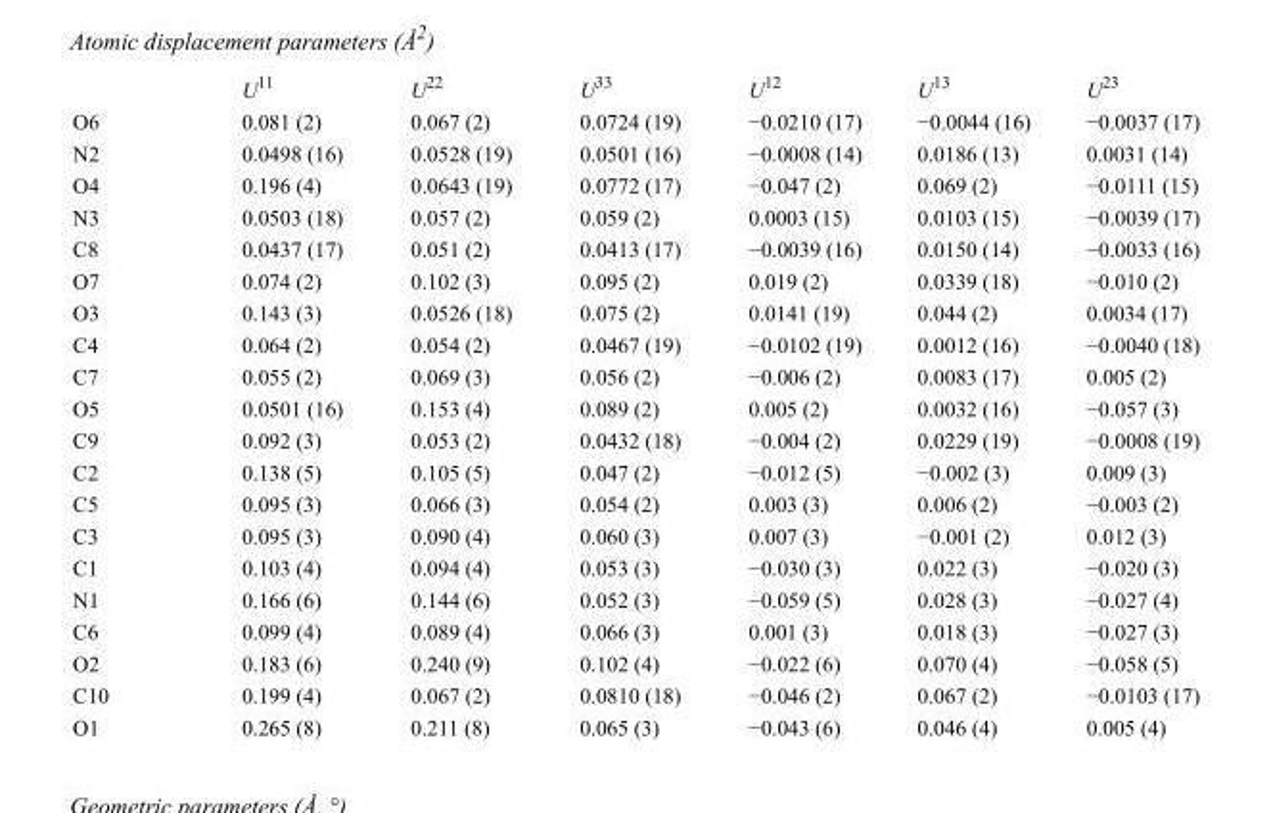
<table><thead><tr><td></td><td>U<sup>11</sup></td><td>U<sup>22</sup></td><td>U<sup>33</sup></td><td>U<sup>12</sup></td><td>U<sup>13</sup></td><td>U<sup>23</sup></td></tr></thead><tbody><tr><td>O6</td><td>0.081 (2)</td><td>0.067 (2)</td><td>0.0724 (19)</td><td>−0.0210 (17)</td><td>−0.0044 (16)</td><td>−0.0037 (17)</td></tr><tr><td>N2</td><td>0.0498 (16)</td><td>0.0528 (19)</td><td>0.0501 (16)</td><td>−0.0008 (14)</td><td>0.0186 (13)</td><td>0.0031 (14)</td></tr><tr><td>O4</td><td>0.196 (4)</td><td>0.0643 (19)</td><td>0.0772 (17)</td><td>−0.047 (2)</td><td>0.069 (2)</td><td>−0.0111 (15)</td></tr><tr><td>N3</td><td>0.0503 (18)</td><td>0.057 (2)</td><td>0.059 (2)</td><td>0.0003 (15)</td><td>0.0103 (15)</td><td>−0.0039 (17)</td></tr><tr><td>C8</td><td>0.0437 (17)</td><td>0.051 (2)</td><td>0.0413 (17)</td><td>−0.0039 (16)</td><td>0.0150 (14)</td><td>−0.0033 (16)</td></tr><tr><td>O7</td><td>0.074 (2)</td><td>0.102 (3)</td><td>0.095 (2)</td><td>0.019 (2)</td><td>0.0339 (18)</td><td>−0.010 (2)</td></tr><tr><td>O3</td><td>0.143 (3)</td><td>0.0526 (18)</td><td>0.075 (2)</td><td>0.0141 (19)</td><td>0.044 (2)</td><td>0.0034 (17)</td></tr><tr><td>C4</td><td>0.064 (2)</td><td>0.054 (2)</td><td>0.0467 (19)</td><td>−0.0102 (19)</td><td>0.0012 (16)</td><td>−0.0040 (18)</td></tr><tr><td>C7</td><td>0.055 (2)</td><td>0.069 (3)</td><td>0.056 (2)</td><td>−0.006 (2)</td><td>0.0083 (17)</td><td>0.005 (2)</td></tr><tr><td>O5</td><td>0.0501 (16)</td><td>0.153 (4)</td><td>0.089 (2)</td><td>0.005 (2)</td><td>0.0032 (16)</td><td>−0.057 (3)</td></tr><tr><td>C9</td><td>0.092 (3)</td><td>0.053 (2)</td><td>0.0432 (18)</td><td>−0.004 (2)</td><td>0.0229 (19)</td><td>−0.0008 (19)</td></tr><tr><td>C2</td><td>0.138 (5)</td><td>0.105 (5)</td><td>0.047 (2)</td><td>−0.012 (5)</td><td>−0.002 (3)</td><td>0.009 (3)</td></tr><tr><td>C5</td><td>0.095 (3)</td><td>0.066 (3)</td><td>0.054 (2)</td><td>0.003 (3)</td><td>0.006 (2)</td><td>−0.003 (2)</td></tr><tr><td>C3</td><td>0.095 (3)</td><td>0.090 (4)</td><td>0.060 (3)</td><td>0.007 (3)</td><td>−0.001 (2)</td><td>0.012 (3)</td></tr><tr><td>C1</td><td>0.103 (4)</td><td>0.094 (4)</td><td>0.053 (3)</td><td>−0.030 (3)</td><td>0.022 (3)</td><td>−0.020 (3)</td></tr><tr><td>N1</td><td>0.166 (6)</td><td>0.144 (6)</td><td>0.052 (3)</td><td>−0.059 (5)</td><td>0.028 (3)</td><td>−0.027 (4)</td></tr><tr><td>C6</td><td>0.099 (4)</td><td>0.089 (4)</td><td>0.066 (3)</td><td>0.001 (3)</td><td>0.018 (3)</td><td>−0.027 (3)</td></tr><tr><td>O2</td><td>0.183 (6)</td><td>0.240 (9)</td><td>0.102 (4)</td><td>−0.022 (6)</td><td>0.070 (4)</td><td>−0.058 (5)</td></tr><tr><td>C10</td><td>0.199 (4)</td><td>0.067 (2)</td><td>0.0810 (18)</td><td>−0.046 (2)</td><td>0.067 (2)</td><td>−0.0103 (17)</td></tr><tr><td>O1</td><td>0.265 (8)</td><td>0.211 (8)</td><td>0.065 (3)</td><td>−0.043 (6)</td><td>0.046 (4)</td><td>0.005 (4)</td></tr></tbody></table>